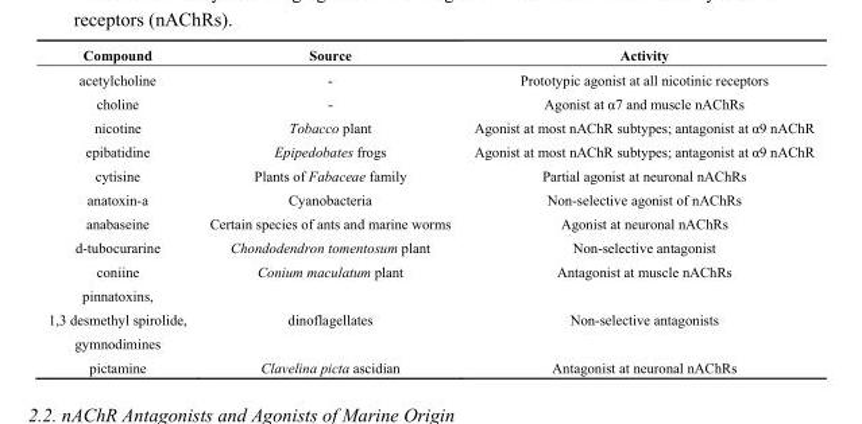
<table><thead><tr><td>Compound</td><td>Source</td><td>Activity</td></tr></thead><tbody><tr><td>acetylcholine</td><td>-</td><td>Prototypic agonist at all nicotinic receptors</td></tr><tr><td>choline</td><td>-</td><td>Agonist at α7 and muscle nAChRs</td></tr><tr><td>nicotine</td><td>Tobacco plant</td><td>Agonist at most nAChR subtypes; antagonist at α9 nAChR</td></tr><tr><td>epibatidine</td><td>Epipedobates frogs</td><td>Agonist at most nAChR subtypes; antagonist at α9 nAChR</td></tr><tr><td>cytisine</td><td>Plants of Fabaceae family</td><td>Partial agonist at neuronal nAChRs</td></tr><tr><td>anatoxin-a</td><td>Cyanobacteria</td><td>Non-selective agonist of nAChRs</td></tr><tr><td>anabaseine</td><td>Certain species of ants and marine worms</td><td>Agonist at neuronal nAChRs</td></tr><tr><td>d-tubocurarine</td><td>Chondodendron tomentosum plant</td><td>Non-selective antagonist</td></tr><tr><td>coniine</td><td>Conium maculatum plant</td><td>Antagonist at muscle nAChRs</td></tr><tr><td>pinnatoxins, 1,3 desmethyl spirolide, gymnodimines</td><td>dinoflagellates</td><td>Non-selective antagonists</td></tr><tr><td>pictamine</td><td>Clavelina picta ascidian</td><td>Antagonist at neuronal nAChRs</td></tr></tbody></table>